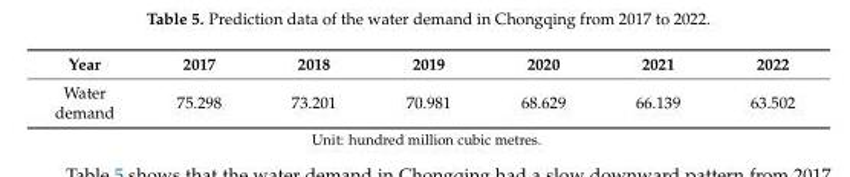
<table><thead><tr><td>Year</td><td>2017</td><td>2018</td><td>2019</td><td>2020</td><td>2021</td><td>2022</td></tr></thead><tbody><tr><td>Water demand</td><td>75.298</td><td>73.201</td><td>70.981</td><td>68.629</td><td>66.139</td><td>63.502</td></tr></tbody></table>